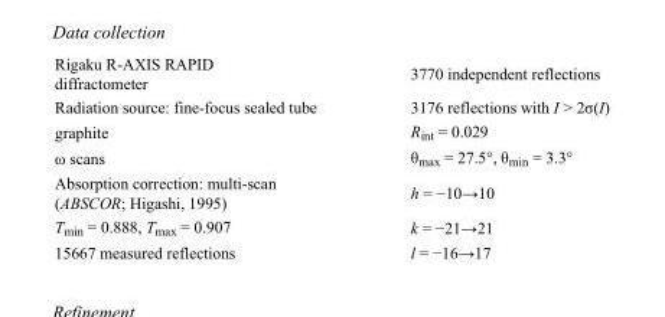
<table><tbody><tr><td>Rigaku R-AXIS RAPID diffractometer</td><td>3770 independent reflections</td></tr><tr><td>Radiation source: fine-focus sealed tube</td><td>3176 reflections with I &gt; 2σ(I)</td></tr><tr><td>graphite</td><td>R<sub>int</sub> = 0.029</td></tr><tr><td>ω scans</td><td>θ<sub>max</sub> = 27.5°, θ<sub>min</sub> = 3.3°</td></tr><tr><td>Absorption correction: multi-scan (ABSCOR; Higashi, 1995)</td><td>h = −10→10</td></tr><tr><td>T<sub>min</sub> = 0.888, T<sub>max</sub> = 0.907</td><td>k = −21→21</td></tr><tr><td>15667 measured reflections</td><td>l = −16→17</td></tr></tbody></table>